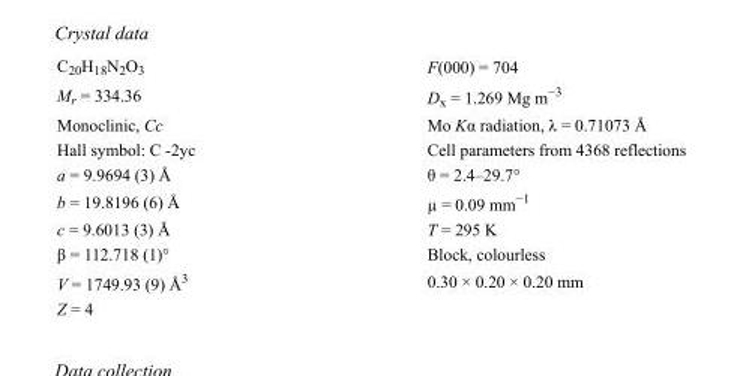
<table><tbody><tr><td>C<sub>20</sub>H<sub>18</sub>N<sub>2</sub>O<sub>3</sub></td><td>F(000) = 704</td></tr><tr><td>M<sub>r</sub> = 334.36</td><td>D<sub>x</sub> = 1.269 Mg m<sup>−3</sup></td></tr><tr><td>Monoclinic, Cc</td><td>Mo Kα radiation, λ = 0.71073 Å</td></tr><tr><td>Hall symbol: C -2yc</td><td>Cell parameters from 4368 reflections</td></tr><tr><td>a = 9.9694 (3) Å</td><td>θ = 2.4–29.7°</td></tr><tr><td>b = 19.8196 (6) Å</td><td>µ = 0.09 mm<sup>−1</sup></td></tr><tr><td>c = 9.6013 (3) Å</td><td>T = 295 K</td></tr><tr><td>β = 112.718 (1)°</td><td>Block, colourless</td></tr><tr><td>V = 1749.93 (9) Å<sup>3</sup></td><td>0.30 × 0.20 × 0.20 mm</td></tr><tr><td>Z = 4</td><td></td></tr></tbody></table>